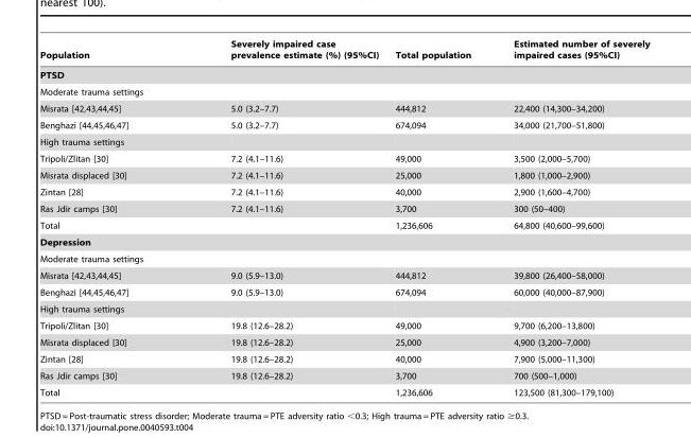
<table><thead><tr><td>Population</td><td>Severely impaired case prevalence estimate (%) (95%CI)</td><td>Total population</td><td>Estimated number of severely impaired cases (95%CI)</td></tr></thead><tbody><tr><td colspan="4">PTSD</td></tr><tr><td colspan="4">Moderate trauma settings</td></tr><tr><td>Misrata [42,43,44,45]</td><td>5.0 (3.2–7.7)</td><td>444,812</td><td>22,400 (14,300–34,200)</td></tr><tr><td>Benghazi [44,45,46,47]</td><td>5.0 (3.2–7.7)</td><td>674,094</td><td>34,000 (21,700–51,800)</td></tr><tr><td colspan="4">High trauma settings</td></tr><tr><td>Tripoli/Zlitan [30]</td><td>7.2 (4.1–11.6)</td><td>49,000</td><td>3,500 (2,000–5,700)</td></tr><tr><td>Misrata displaced [30]</td><td>7.2 (4.1–11.6)</td><td>25,000</td><td>1,800 (1,000–2,900)</td></tr><tr><td>Zintan [28]</td><td>7.2 (4.1–11.6)</td><td>40,000</td><td>2,900 (1,600–4,700)</td></tr><tr><td>Ras Jdir camps [30]</td><td>7.2 (4.1–11.6)</td><td>3,700</td><td>300 (50–400)</td></tr><tr><td>Total</td><td></td><td>1,236,606</td><td>64,800 (40,600–99,600)</td></tr><tr><td colspan="4">Depression</td></tr><tr><td colspan="4">Moderate trauma settings</td></tr><tr><td>Misrata [42,43,44,45]</td><td>9.0 (5.9–13.0)</td><td>444,812</td><td>39,800 (26,400–58,000)</td></tr><tr><td>Benghazi [44,45,46,47]</td><td>9.0 (5.9–13.0)</td><td>674,094</td><td>60,000 (40,000–87,900)</td></tr><tr><td colspan="4">High trauma settings</td></tr><tr><td>Tripoli/Zlitan [30]</td><td>19.8 (12.6–28.2)</td><td>49,000</td><td>9,700 (6,200–13,800)</td></tr><tr><td>Misrata displaced [30]</td><td>19.8 (12.6–28.2)</td><td>25,000</td><td>4,900 (3,200–7,000)</td></tr><tr><td>Zintan [28]</td><td>19.8 (12.6–28.2)</td><td>40,000</td><td>7,900 (5,000–11,300)</td></tr><tr><td>Ras Jdir camps [30]</td><td>19.8 (12.6–28.2)</td><td>3,700</td><td>700 (500–1,000)</td></tr><tr><td>Total</td><td></td><td>1,236,606</td><td>123,500 (81,300–179,100)</td></tr></tbody></table>